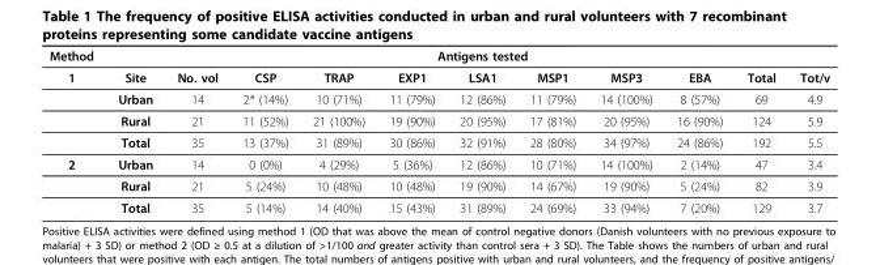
<table><thead><tr><td rowspan="2">Method 1</td><td rowspan="2">Site</td><td rowspan="2">No. vol</td><td colspan="7">Antigens tested</td><td rowspan="2">Total</td><td rowspan="2">Tot/v</td></tr><tr><td>CSP</td><td>TRAP</td><td>EXP1</td><td>LSA1</td><td>MSP1</td><td>MSP3</td><td>EBA</td></tr></thead><tbody><tr><td></td><td>Urban</td><td>14</td><td>2* (14%)</td><td>10 (71%)</td><td>11 (79%)</td><td>12 (86%)</td><td>11 (79%)</td><td>14 (100%)</td><td>8 (57%)</td><td>69</td><td>4.9</td></tr><tr><td></td><td>Rural</td><td>21</td><td>11 (52%)</td><td>21 (100%)</td><td>19 (90%)</td><td>20 (95%)</td><td>17 (81%)</td><td>20 (95%)</td><td>16 (90%)</td><td>124</td><td>5.9</td></tr><tr><td></td><td>Total</td><td>35</td><td>13 (37%)</td><td>31 (89%)</td><td>30 (86%)</td><td>32 (91%)</td><td>28 (80%)</td><td>34 (97%)</td><td>24 (86%)</td><td>192</td><td>5.5</td></tr><tr><td rowspan="3">2</td><td>Urban</td><td>14</td><td>0 (0%)</td><td>4 (29%)</td><td>5 (36%)</td><td>12 (86%)</td><td>10 (71%)</td><td>14 (100%)</td><td>2 (14%)</td><td>47</td><td>3.4</td></tr><tr><td>Rural</td><td>21</td><td>5 (24%)</td><td>10 (48%)</td><td>10 (48%)</td><td>19 (90%)</td><td>14 (67%)</td><td>19 (90%)</td><td>5 (24%)</td><td>82</td><td>3.9</td></tr><tr><td>Total</td><td>35</td><td>5 (14%)</td><td>14 (40%)</td><td>15 (43%)</td><td>31 (89%)</td><td>24 (69%)</td><td>33 (94%)</td><td>7 (20%)</td><td>129</td><td>3.7</td></tr></tbody></table>